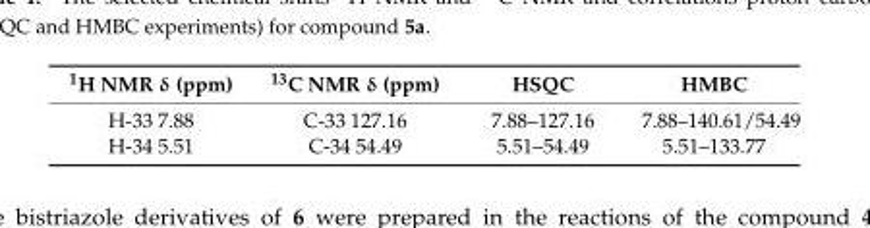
<table><thead><tr><td>1H NMR δ (ppm)</td><td>13C NMR δ (ppm)</td><td>HSQC</td><td>HMBC</td></tr></thead><tbody><tr><td>H-33 7.88</td><td>C-33 127.16</td><td>7.88–127.16</td><td>7.88–140.61/54.49</td></tr><tr><td>H-34 5.51</td><td>C-34 54.49</td><td>5.51–54.49</td><td>5.51–133.77</td></tr></tbody></table>